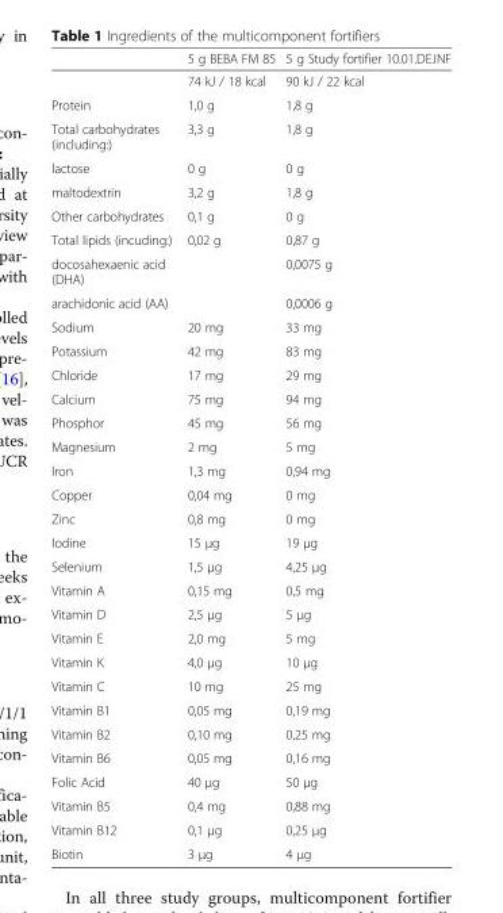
<table><thead><tr><td></td><td>5 g BEBA FM 85</td><td>5 g Study fortifier 10.01.DE.INF</td></tr></thead><tbody><tr><td></td><td>74 kJ / 18 kcal</td><td>90 kJ / 22 kcal</td></tr><tr><td>Protein</td><td>1,0 g</td><td>1,8 g</td></tr><tr><td>Total carbohydrates (including:)</td><td>3,3 g</td><td>1,8 g</td></tr><tr><td>lactose</td><td>0 g</td><td>0 g</td></tr><tr><td>maltodextrin</td><td>3,2 g</td><td>1,8 g</td></tr><tr><td>Other carbohydrates</td><td>0,1 g</td><td>0 g</td></tr><tr><td>Total lipids (incuding:)</td><td>0,02 g</td><td>0,87 g</td></tr><tr><td>docosahexaenic acid (DHA)</td><td></td><td>0,0075 g</td></tr><tr><td>arachidonic acid (AA)</td><td></td><td>0,0006 g</td></tr><tr><td>Sodium</td><td>20 mg</td><td>33 mg</td></tr><tr><td>Potassium</td><td>42 mg</td><td>83 mg</td></tr><tr><td>Chloride</td><td>17 mg</td><td>29 mg</td></tr><tr><td>Calcium</td><td>75 mg</td><td>94 mg</td></tr><tr><td>Phosphor</td><td>45 mg</td><td>56 mg</td></tr><tr><td>Magnesium</td><td>2 mg</td><td>5 mg</td></tr><tr><td>Iron</td><td>1,3 mg</td><td>0,94 mg</td></tr><tr><td>Copper</td><td>0,04 mg</td><td>0 mg</td></tr><tr><td>Zinc</td><td>0,8 mg</td><td>0 mg</td></tr><tr><td>Iodine</td><td>15 μg</td><td>19 μg</td></tr><tr><td>Selenium</td><td>1,5 μg</td><td>4,25 μg</td></tr><tr><td>Vitamin A</td><td>0,15 mg</td><td>0,5 mg</td></tr><tr><td>Vitamin D</td><td>2,5 μg</td><td>5 μg</td></tr><tr><td>Vitamin E</td><td>2,0 mg</td><td>5 mg</td></tr><tr><td>Vitamin K</td><td>4,0 μg</td><td>10 μg</td></tr><tr><td>Vitamin C</td><td>10 mg</td><td>25 mg</td></tr><tr><td>Vitamin B1</td><td>0,05 mg</td><td>0,19 mg</td></tr><tr><td>Vitamin B2</td><td>0,10 mg</td><td>0,25 mg</td></tr><tr><td>Vitamin B6</td><td>0,05 mg</td><td>0,16 mg</td></tr><tr><td>Folic Acid</td><td>40 μg</td><td>50 μg</td></tr><tr><td>Vitamin B5</td><td>0,4 mg</td><td>0,88 mg</td></tr><tr><td>Vitamin B12</td><td>0,1 μg</td><td>0,25 μg</td></tr><tr><td>Biotin</td><td>3 μg</td><td>4 μg</td></tr></tbody></table>